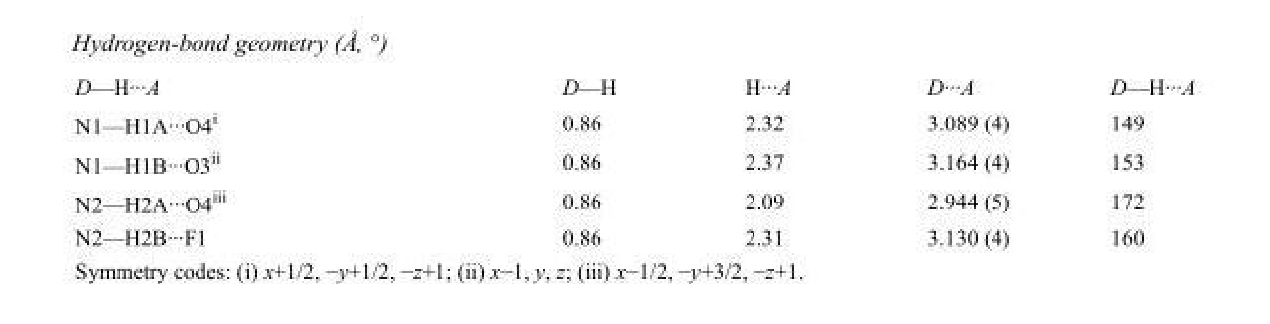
<table><tbody><tr><td>D—H···A</td><td>D—H</td><td>H···A</td><td>D···A</td><td>D—H···A</td></tr><tr><td>N1—H1A···O4<sup>i</sup></td><td>0.86</td><td>2.32</td><td>3.089 (4)</td><td>149</td></tr><tr><td>N1—H1B···O3<sup>ii</sup></td><td>0.86</td><td>2.37</td><td>3.164 (4)</td><td>153</td></tr><tr><td>N2—H2A···O4<sup>iii</sup></td><td>0.86</td><td>2.09</td><td>2.944 (5)</td><td>172</td></tr><tr><td>N2—H2B···F1</td><td>0.86</td><td>2.31</td><td>3.130 (4)</td><td>160</td></tr></tbody></table>